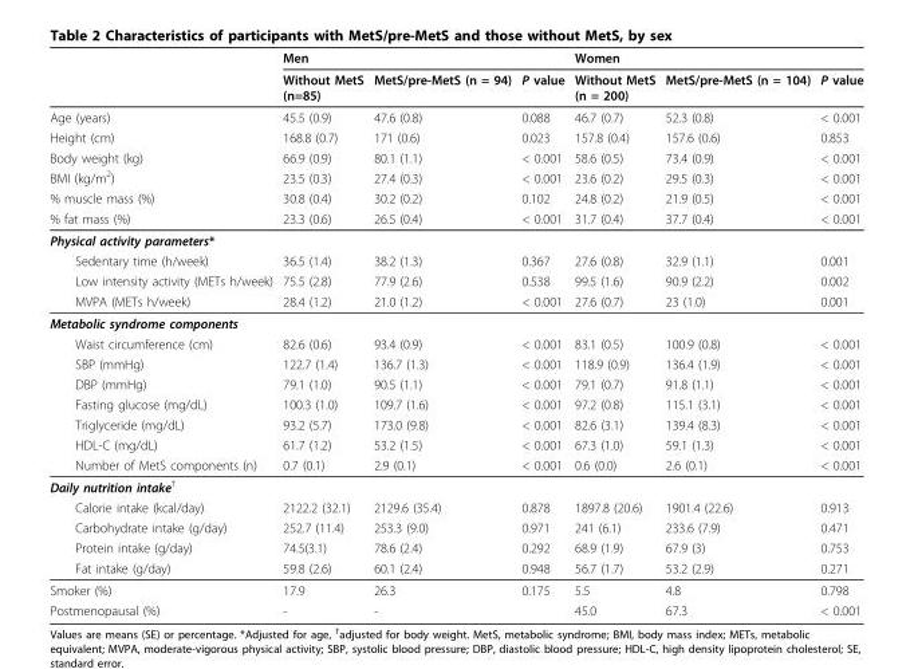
<table><thead><tr><td rowspan="2"></td><td rowspan="2">Men Without MetS (n=85)</td><td rowspan="2">MetS/pre-MetS (n = 94)</td><td rowspan="2">P value</td><td rowspan="2">Women Without MetS (n = 200)</td><td rowspan="2">MetS/pre-MetS (n = 104)</td><td rowspan="2">P value</td></tr><tr></tr></thead><tbody><tr><td>Age (years)</td><td>45.5 (0.9)</td><td>47.6 (0.8)</td><td>0.088</td><td>46.7 (0.7)</td><td>52.3 (0.8)</td><td>&lt; 0.001</td></tr><tr><td>Height (cm)</td><td>168.8 (0.7)</td><td>171 (0.6)</td><td>0.023</td><td>157.8 (0.4)</td><td>157.6 (0.6)</td><td>0.853</td></tr><tr><td>Body weight (kg)</td><td>66.9 (0.9)</td><td>80.1 (1.1)</td><td>&lt; 0.001</td><td>58.6 (0.5)</td><td>73.4 (0.9)</td><td>&lt; 0.001</td></tr><tr><td>BMI (kg/m<sup>2</sup>)</td><td>23.5 (0.3)</td><td>27.4 (0.3)</td><td>&lt; 0.001</td><td>23.6 (0.2)</td><td>29.5 (0.3)</td><td>&lt; 0.001</td></tr><tr><td>% muscle mass (%)</td><td>30.8 (0.4)</td><td>30.2 (0.2)</td><td>0.102</td><td>24.8 (0.2)</td><td>21.9 (0.5)</td><td>&lt; 0.001</td></tr><tr><td>% fat mass (%)</td><td>23.3 (0.6)</td><td>26.5 (0.4)</td><td>&lt; 0.001</td><td>31.7 (0.4)</td><td>37.7 (0.4)</td><td>&lt; 0.001</td></tr><tr><td colspan="7">Physical activity parameters*</td></tr><tr><td>Sedentary time (h/week)</td><td>36.5 (1.4)</td><td>38.2 (1.3)</td><td>0.367</td><td>27.6 (0.8)</td><td>32.9 (1.1)</td><td>0.001</td></tr><tr><td>Low intensity activity (METs h/week)</td><td>75.5 (2.8)</td><td>77.9 (2.6)</td><td>0.538</td><td>99.5 (1.6)</td><td>90.9 (2.2)</td><td>0.002</td></tr><tr><td>MVPA (METs h/week)</td><td>28.4 (1.2)</td><td>21.0 (1.2)</td><td>&lt; 0.001</td><td>27.6 (0.7)</td><td>23 (1.0)</td><td>0.001</td></tr><tr><td colspan="7">Metabolic syndrome components</td></tr><tr><td>Waist circumference (cm)</td><td>82.6 (0.6)</td><td>93.4 (0.9)</td><td>&lt; 0.001</td><td>83.1 (0.5)</td><td>100.9 (0.8)</td><td>&lt; 0.001</td></tr><tr><td>SBP (mmHg)</td><td>122.7 (1.4)</td><td>136.7 (1.3)</td><td>&lt; 0.001</td><td>118.9 (0.9)</td><td>136.4 (1.9)</td><td>&lt; 0.001</td></tr><tr><td>DBP (mmHg)</td><td>79.1 (1.0)</td><td>90.5 (1.1)</td><td>&lt; 0.001</td><td>79.1 (0.7)</td><td>91.8 (1.1)</td><td>&lt; 0.001</td></tr><tr><td>Fasting glucose (mg/dL)</td><td>100.3 (1.0)</td><td>109.7 (1.6)</td><td>&lt; 0.001</td><td>97.2 (0.8)</td><td>115.1 (3.1)</td><td>&lt; 0.001</td></tr><tr><td>Triglyceride (mg/dL)</td><td>93.2 (5.7)</td><td>173.0 (9.8)</td><td>&lt; 0.001</td><td>82.6 (3.1)</td><td>139.4 (8.3)</td><td>&lt; 0.001</td></tr><tr><td>HDL-C (mg/dL)</td><td>61.7 (1.2)</td><td>53.2 (1.5)</td><td>&lt; 0.001</td><td>67.3 (1.0)</td><td>59.1 (1.3)</td><td>&lt; 0.001</td></tr><tr><td>Number of MetS components (n)</td><td>0.7 (0.1)</td><td>2.9 (0.1)</td><td>&lt; 0.001</td><td>0.6 (0.0)</td><td>2.6 (0.1)</td><td>&lt; 0.001</td></tr><tr><td colspan="7">Daily nutrition intake<sup>†</sup></td></tr><tr><td>Calorie intake (kcal/day)</td><td>2122.2 (32.1)</td><td>2129.6 (35.4)</td><td>0.878</td><td>1897.8 (20.6)</td><td>1901.4 (22.6)</td><td>0.913</td></tr><tr><td>Carbohydrate intake (g/day)</td><td>252.7 (11.4)</td><td>253.3 (9.0)</td><td>0.971</td><td>241 (6.1)</td><td>233.6 (7.9)</td><td>0.471</td></tr><tr><td>Protein intake (g/day)</td><td>74.5(3.1)</td><td>78.6 (2.4)</td><td>0.292</td><td>68.9 (1.9)</td><td>67.9 (3)</td><td>0.753</td></tr><tr><td>Fat intake (g/day)</td><td>59.8 (2.6)</td><td>60.1 (2.4)</td><td>0.948</td><td>56.7 (1.7)</td><td>53.2 (2.9)</td><td>0.271</td></tr><tr><td>Smoker (%)</td><td>17.9</td><td>26.3</td><td>0.175</td><td>5.5</td><td>4.8</td><td>0.798</td></tr><tr><td>Postmenopausal (%)</td><td>-</td><td>-</td><td></td><td>45.0</td><td>67.3</td><td>&lt; 0.001</td></tr></tbody></table>